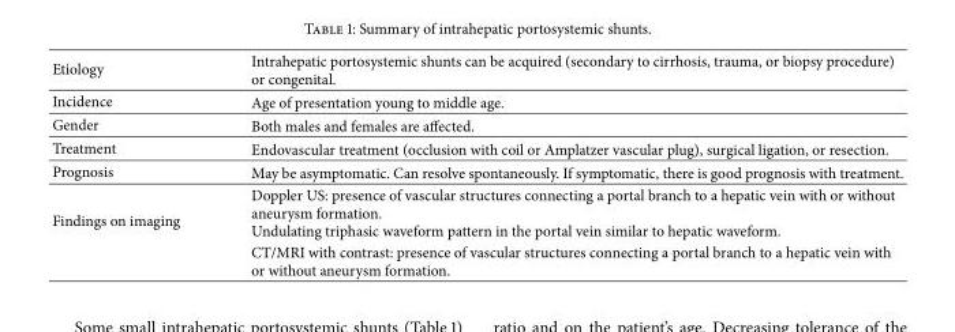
<table><tbody><tr><td>Etiology</td><td>Intrahepatic portosystemic shunts can be acquired (secondary to cirrhosis, trauma, or biopsy procedure) or congenital.</td></tr><tr><td>Incidence</td><td>Age of presentation young to middle age.</td></tr><tr><td>Gender</td><td>Both males and females are affected.</td></tr><tr><td>Treatment</td><td>Endovascular treatment (occlusion with coil or Amplatzer vascular plug), surgical ligation, or resection.</td></tr><tr><td>Prognosis</td><td>May be asymptomatic. Can resolve spontaneously. If symptomatic, there is good prognosis with treatment.</td></tr><tr><td rowspan="2">Findings on imaging</td><td>Doppler US: presence of vascular structures connecting a portal branch to a hepatic vein with or without aneurysm formation. Undulating triphasic waveform pattern in the portal vein similar to hepatic waveform.</td></tr><tr><td>CT/MRI with contrast: presence of vascular structures connecting a portal branch to a hepatic vein with or without aneurysm formation.</td></tr></tbody></table>